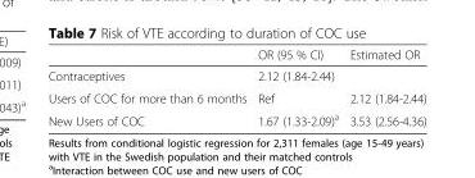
<table><thead><tr><td></td><td>OR (95 % CI)</td><td>Estimated OR</td></tr></thead><tbody><tr><td>Contraceptives</td><td>2.12 (1.84-2.44)</td><td></td></tr><tr><td>Users of COC for more than 6 months</td><td>Ref</td><td>2.12 (1.84-2.44)</td></tr><tr><td>New Users of COC</td><td>1.67 (1.33-2.09)<sup>a</sup></td><td>3.53 (2.56-4.36)</td></tr></tbody></table>